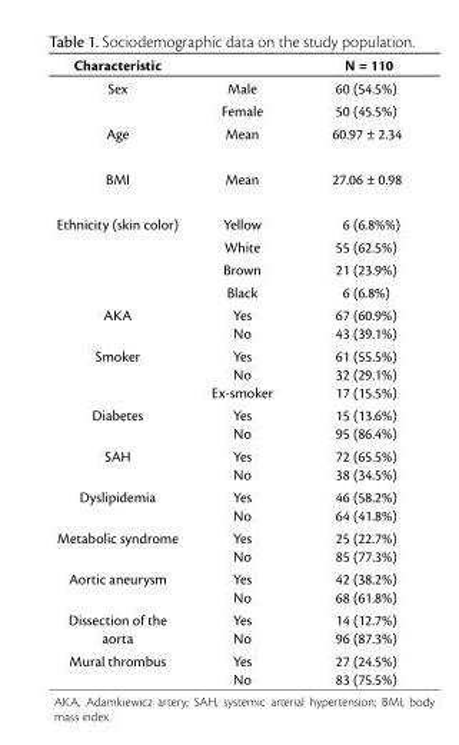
<table><thead><tr><td>Characteristic</td><td></td><td>N = 110</td></tr></thead><tbody><tr><td rowspan="2">Sex</td><td>Male</td><td>60 (54.5%)</td></tr><tr><td>Female</td><td>50 (45.5%)</td></tr><tr><td>Age</td><td>Mean</td><td>60.97 ± 2.34</td></tr><tr><td>BMI</td><td>Mean</td><td>27.06 ± 0.98</td></tr><tr><td rowspan="4">Ethnicity (skin color)</td><td>Yellow</td><td>6 (6.8%%)</td></tr><tr><td>White</td><td>55 (62.5%)</td></tr><tr><td>Brown</td><td>21 (23.9%)</td></tr><tr><td>Black</td><td>6 (6.8%)</td></tr><tr><td>AKA</td><td>Yes No</td><td>67 (60.9%) 43 (39.1%)</td></tr><tr><td>Smoker</td><td>Yes No Ex-smoker</td><td>61 (55.5%) 32 (29.1%) 17 (15.5%)</td></tr><tr><td>Diabetes</td><td>Yes No</td><td>15 (13.6%) 95 (86.4%)</td></tr><tr><td>SAH</td><td>Yes No</td><td>72 (65.5%) 38 (34.5%)</td></tr><tr><td>Dyslipidemia</td><td>Yes No</td><td>46 (58.2%) 64 (41.8%)</td></tr><tr><td>Metabolic syndrome</td><td>Yes No</td><td>25 (22.7%) 85 (77.3%)</td></tr><tr><td>Aortic aneurysm</td><td>Yes No</td><td>42 (38.2%) 68 (61.8%)</td></tr><tr><td>Dissection of the aorta</td><td>Yes No</td><td>14 (12.7%) 96 (87.3%)</td></tr><tr><td>Mural thrombus</td><td>Yes No</td><td>27 (24.5%) 83 (75.5%)</td></tr></tbody></table>